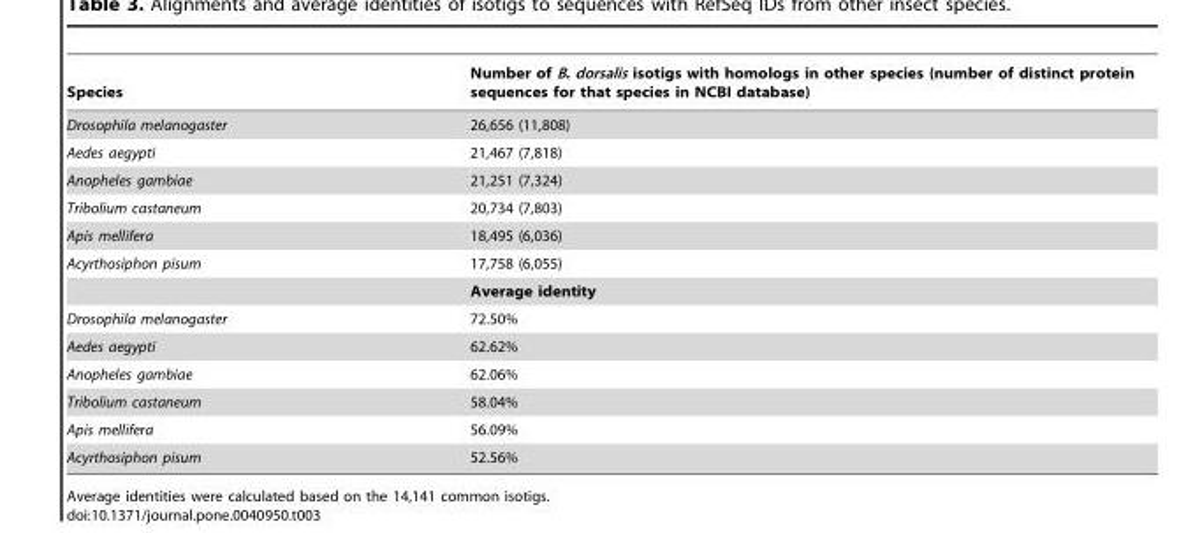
<table><thead><tr><td>Species</td><td>Number of B. dorsalis isotigs with homologs in other species (number of distinct protein sequences for that species in NCBI database)</td></tr></thead><tbody><tr><td>Drosophila melanogaster</td><td>26,656 (11,808)</td></tr><tr><td>Aedes aegypti</td><td>21,467 (7,818)</td></tr><tr><td>Anopheles gambiae</td><td>21,251 (7,324)</td></tr><tr><td>Tribolium castaneum</td><td>20,734 (7,803)</td></tr><tr><td>Apis mellifera</td><td>18,495 (6,036)</td></tr><tr><td rowspan="2">Acyrthosiphon pisum</td><td>17,758 (6,055)</td></tr><tr><td>Average identity</td></tr><tr><td>Drosophila melanogaster</td><td>72.50%</td></tr><tr><td>Aedes aegypti</td><td>62.62%</td></tr><tr><td>Anopheles gambiae</td><td>62.06%</td></tr><tr><td>Tribolium castaneum</td><td>58.04%</td></tr><tr><td>Apis mellifera</td><td>56.09%</td></tr><tr><td>Acyrthosiphon pisum</td><td>52.56%</td></tr></tbody></table>